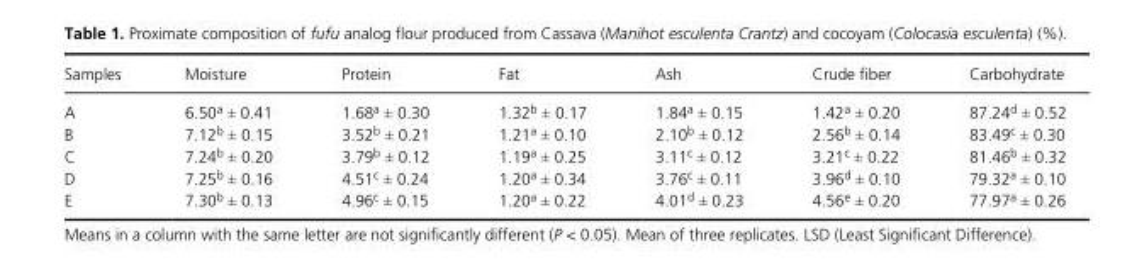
<table><thead><tr><td>Samples</td><td>Moisture</td><td>Protein</td><td>Fat</td><td>Ash</td><td>Crude fiber</td><td>Carbohydrate</td></tr></thead><tbody><tr><td>A</td><td>6.50<sup>a</sup> ± 0.41</td><td>1.68<sup>a</sup> ± 0.30</td><td>1.32<sup>b</sup> ± 0.17</td><td>1.84<sup>a</sup> ± 0.15</td><td>1.42<sup>a</sup> ± 0.20</td><td>87.24<sup>d</sup> ± 0.52</td></tr><tr><td>B</td><td>7.12<sup>b</sup> ± 0.15</td><td>3.52<sup>b</sup> ± 0.21</td><td>1.21<sup>a</sup> ± 0.10</td><td>2.10<sup>b</sup> ± 0.12</td><td>2.56<sup>b</sup> ± 0.14</td><td>83.49<sup>c</sup> ± 0.30</td></tr><tr><td>C</td><td>7.24<sup>b</sup> ± 0.20</td><td>3.79<sup>b</sup> ± 0.12</td><td>1.19<sup>a</sup> ± 0.25</td><td>3.11<sup>c</sup> ± 0.12</td><td>3.21<sup>c</sup> ± 0.22</td><td>81.46<sup>b</sup> ± 0.32</td></tr><tr><td>D</td><td>7.25<sup>b</sup> ± 0.16</td><td>4.51<sup>c</sup> ± 0.24</td><td>1.20<sup>a</sup> ± 0.34</td><td>3.76<sup>c</sup> ± 0.11</td><td>3.96<sup>d</sup> ± 0.10</td><td>79.32<sup>a</sup> ± 0.10</td></tr><tr><td>E</td><td>7.30<sup>b</sup> ± 0.13</td><td>4.96<sup>c</sup> ± 0.15</td><td>1.20<sup>a</sup> ± 0.22</td><td>4.01<sup>d</sup> ± 0.23</td><td>4.56<sup>e</sup> ± 0.20</td><td>77.97<sup>a</sup> ± 0.26</td></tr></tbody></table>